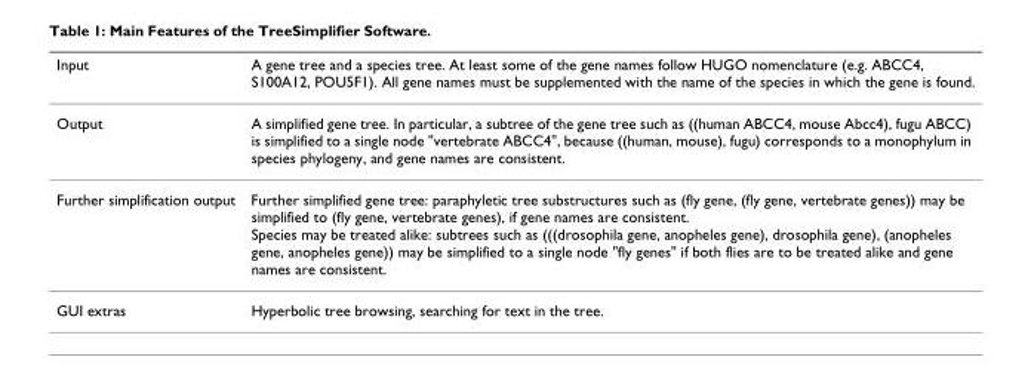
<table><thead><tr><td>Input</td><td>A gene tree and a species tree. At least some of the gene names follow HUGO nomenclature (e.g. ABCC4, S100A12, POU5F1). All gene names must be supplemented with the name of the species in which the gene is found.</td></tr></thead><tbody><tr><td>Output</td><td>A simplified gene tree. In particular, a subtree of the gene tree such as ((human ABCC4, mouse Abcc4), fugu ABCC) is simplified to a single node &quot;vertebrate ABCC4&quot;, because ((human, mouse), fugu) corresponds to a monophylum in species phylogeny, and gene names are consistent.</td></tr><tr><td>Further simplification output</td><td>Further simplified gene tree: paraphyletic tree substructures such as (fly gene, (fly gene, vertebrate genes)) may be simplified to (fly gene, vertebrate genes), if gene names are consistent. Species may be treated alike: subtrees such as (((drosophila gene, anopheles gene), drosophila gene), (anopheles gene, anopheles gene)) may be simplified to a single node &quot;fly genes&quot; if both flies are to be treated alike and gene names are consistent.</td></tr><tr><td>GUI extras</td><td>Hyperbolic tree browsing, searching for text in the tree.</td></tr></tbody></table>